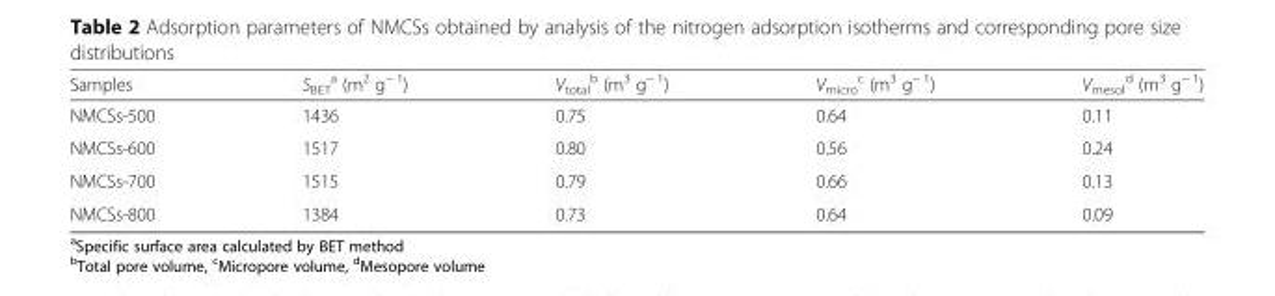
<table><thead><tr><td>Samples</td><td>S<sub>BET</sub> <sup>a</sup> (m<sup>2</sup> g<sup>− 1</sup>)</td><td>V<sub>total</sub> <sup>b</sup> (m<sup>3</sup> g<sup>− 1</sup>)</td><td>V<sub>micro</sub> <sup>c</sup> (m<sup>3</sup> g<sup>− 1</sup>)</td><td>V<sub>mesol</sub> <sup>d</sup> (m<sup>3</sup> g<sup>− 1</sup>)</td></tr></thead><tbody><tr><td>NMCSs-500</td><td>1436</td><td>0.75</td><td>0.64</td><td>0.11</td></tr><tr><td>NMCSs-600</td><td>1517</td><td>0.80</td><td>0.56</td><td>0.24</td></tr><tr><td>NMCSs-700</td><td>1515</td><td>0.79</td><td>0.66</td><td>0.13</td></tr><tr><td>NMCSs-800</td><td>1384</td><td>0.73</td><td>0.64</td><td>0.09</td></tr></tbody></table>